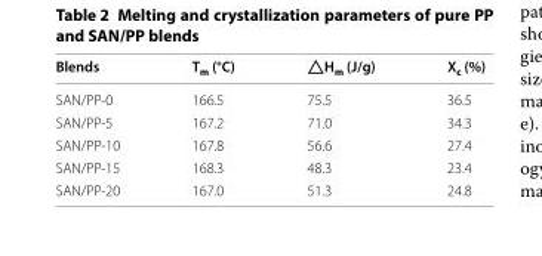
<table><thead><tr><td>Blends</td><td>T<sub>m</sub> (°C)</td><td>△H<sub>m</sub> (J/g)</td><td>X<sub>c</sub> (%)</td></tr></thead><tbody><tr><td>SAN/PP‑0</td><td>166.5</td><td>75.5</td><td>36.5</td></tr><tr><td>SAN/PP‑5</td><td>167.2</td><td>71.0</td><td>34.3</td></tr><tr><td>SAN/PP‑10</td><td>167.8</td><td>56.6</td><td>27.4</td></tr><tr><td>SAN/PP‑15</td><td>168.3</td><td>48.3</td><td>23.4</td></tr><tr><td>SAN/PP‑20</td><td>167.0</td><td>51.3</td><td>24.8</td></tr></tbody></table>